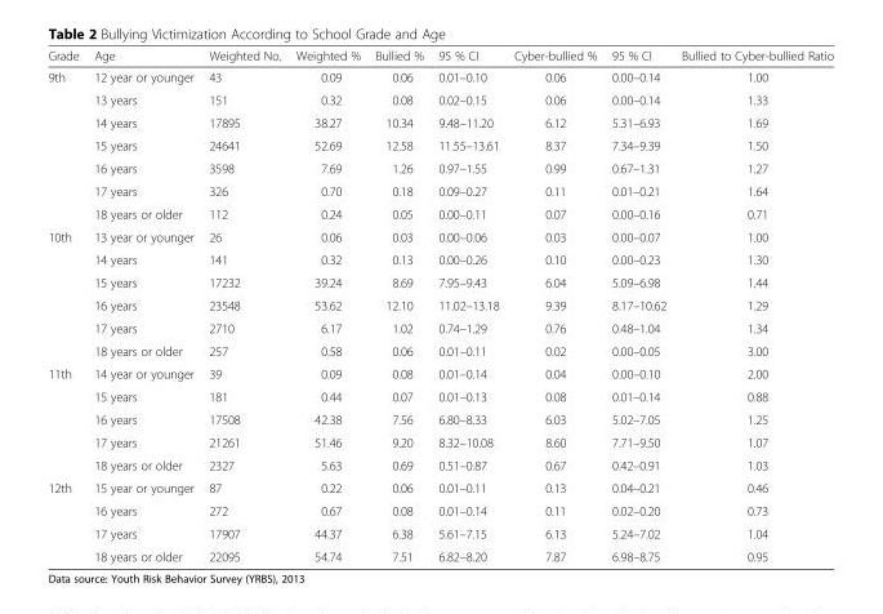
<table><thead><tr><td>Grade</td><td>Age</td><td>Weighted No.</td><td>Weighted %</td><td>Bullied %</td><td>95 % CI</td><td>Cyber-bullied %</td><td>95 % CI</td><td>Bullied to Cyber-bullied Ratio</td></tr></thead><tbody><tr><td rowspan="7">9th</td><td>12 year or younger</td><td>43</td><td>0.09</td><td>0.06</td><td>0.01–0.10</td><td>0.06</td><td>0.00–0.14</td><td>1.00</td></tr><tr><td>13 years</td><td>151</td><td>0.32</td><td>0.08</td><td>0.02–0.15</td><td>0.06</td><td>0.00–0.14</td><td>1.33</td></tr><tr><td>14 years</td><td>17895</td><td>38.27</td><td>10.34</td><td>9.48–11.20</td><td>6.12</td><td>5.31–6.93</td><td>1.69</td></tr><tr><td>15 years</td><td>24641</td><td>52.69</td><td>12.58</td><td>11.55–13.61</td><td>8.37</td><td>7.34–9.39</td><td>1.50</td></tr><tr><td>16 years</td><td>3598</td><td>7.69</td><td>1.26</td><td>0.97–1.55</td><td>0.99</td><td>0.67–1.31</td><td>1.27</td></tr><tr><td>17 years</td><td>326</td><td>0.70</td><td>0.18</td><td>0.09–0.27</td><td>0.11</td><td>0.01–0.21</td><td>1.64</td></tr><tr><td>18 years or older</td><td>112</td><td>0.24</td><td>0.05</td><td>0.00–0.11</td><td>0.07</td><td>0.00–0.16</td><td>0.71</td></tr><tr><td rowspan="6">10th</td><td>13 year or younger</td><td>26</td><td>0.06</td><td>0.03</td><td>0.00–0.06</td><td>0.03</td><td>0.00–0.07</td><td>1.00</td></tr><tr><td>14 years</td><td>141</td><td>0.32</td><td>0.13</td><td>0.00–0.26</td><td>0.10</td><td>0.00–0.23</td><td>1.30</td></tr><tr><td>15 years</td><td>17232</td><td>39.24</td><td>8.69</td><td>7.95–9.43</td><td>6.04</td><td>5.09–6.98</td><td>1.44</td></tr><tr><td>16 years</td><td>23548</td><td>53.62</td><td>12.10</td><td>11.02–13.18</td><td>9.39</td><td>8.17–10.62</td><td>1.29</td></tr><tr><td>17 years</td><td>2710</td><td>6.17</td><td>1.02</td><td>0.74–1.29</td><td>0.76</td><td>0.48–1.04</td><td>1.34</td></tr><tr><td>18 years or older</td><td>257</td><td>0.58</td><td>0.06</td><td>0.01–0.11</td><td>0.02</td><td>0.00–0.05</td><td>3.00</td></tr><tr><td rowspan="5">11th</td><td>14 year or younger</td><td>39</td><td>0.09</td><td>0.08</td><td>0.01–0.14</td><td>0.04</td><td>0.00–0.10</td><td>2.00</td></tr><tr><td>15 years</td><td>181</td><td>0.44</td><td>0.07</td><td>0.01–0.13</td><td>0.08</td><td>0.01–0.14</td><td>0.88</td></tr><tr><td>16 years</td><td>17508</td><td>42.38</td><td>7.56</td><td>6.80–8.33</td><td>6.03</td><td>5.02–7.05</td><td>1.25</td></tr><tr><td>17 years</td><td>21261</td><td>51.46</td><td>9.20</td><td>8.32–10.08</td><td>8.60</td><td>7.71–9.50</td><td>1.07</td></tr><tr><td>18 years or older</td><td>2327</td><td>5.63</td><td>0.69</td><td>0.51–0.87</td><td>0.67</td><td>0.42–0.91</td><td>1.03</td></tr><tr><td rowspan="4">12th</td><td>15 year or younger</td><td>87</td><td>0.22</td><td>0.06</td><td>0.01–0.11</td><td>0.13</td><td>0.04–0.21</td><td>0.46</td></tr><tr><td>16 years</td><td>272</td><td>0.67</td><td>0.08</td><td>0.01–0.14</td><td>0.11</td><td>0.02–0.20</td><td>0.73</td></tr><tr><td>17 years</td><td>17907</td><td>44.37</td><td>6.38</td><td>5.61–7.15</td><td>6.13</td><td>5.24–7.02</td><td>1.04</td></tr><tr><td>18 years or older</td><td>22095</td><td>54.74</td><td>7.51</td><td>6.82–8.20</td><td>7.87</td><td>6.98–8.75</td><td>0.95</td></tr></tbody></table>